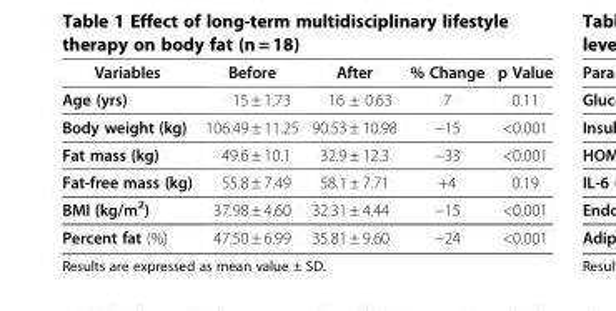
<table><thead><tr><td>Variables</td><td>Before</td><td>After</td><td>% Change</td><td>p Value</td></tr></thead><tbody><tr><td>Age (yrs)</td><td>15 ± 1.73</td><td>16 ± 0.63</td><td>7</td><td>0.11</td></tr><tr><td>Body weight (kg)</td><td>106.49 ± 11.25</td><td>90.53 ± 10.98</td><td>−15</td><td>&lt;0.001</td></tr><tr><td>Fat mass (kg)</td><td>49.6 ± 10.1</td><td>32.9 ± 12.3</td><td>−33</td><td>&lt;0.001</td></tr><tr><td>Fat-free mass (kg)</td><td>55.8 ± 7.49</td><td>58.1 ± 7.71</td><td>+4</td><td>0.19</td></tr><tr><td>BMI (kg/m<sup>2</sup>)</td><td>37.98 ± 4.60</td><td>32.31 ± 4.44</td><td>−15</td><td>&lt;0.001</td></tr><tr><td>Percent fat (%)</td><td>47.50 ± 6.99</td><td>35.81 ± 9.60</td><td>−24</td><td>&lt;0.001</td></tr></tbody></table>